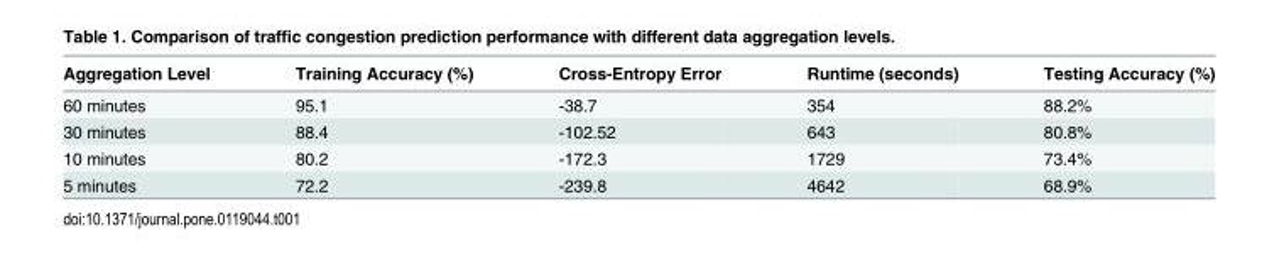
<table><thead><tr><td>Aggregation Level</td><td>Training Accuracy (%)</td><td>Cross-Entropy Error</td><td>Runtime (seconds)</td><td>Testing Accuracy (%)</td></tr></thead><tbody><tr><td>60 minutes</td><td>95.1</td><td>-38.7</td><td>354</td><td>88.2%</td></tr><tr><td>30 minutes</td><td>88.4</td><td>-102.52</td><td>643</td><td>80.8%</td></tr><tr><td>10 minutes</td><td>80.2</td><td>-172.3</td><td>1729</td><td>73.4%</td></tr><tr><td>5 minutes</td><td>72.2</td><td>-239.8</td><td>4642</td><td>68.9%</td></tr></tbody></table>